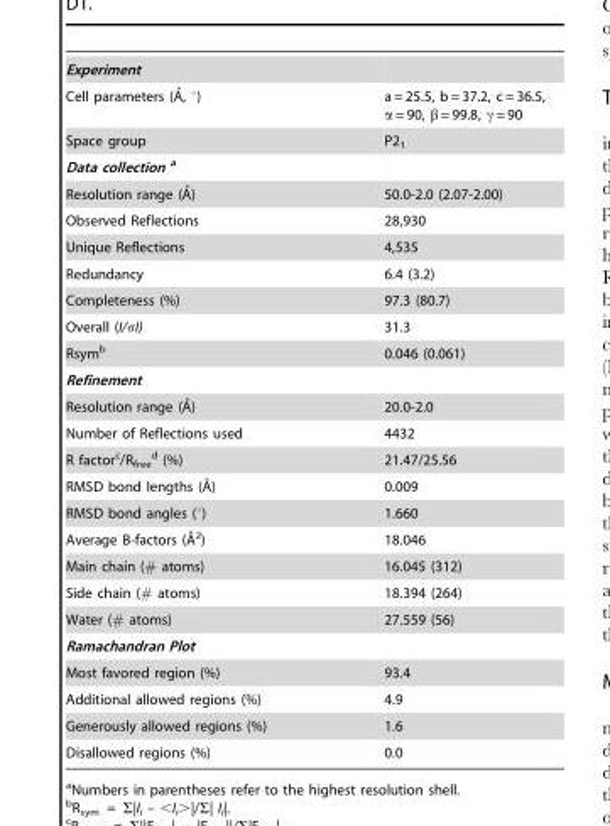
<table><tbody><tr><td colspan="2">Experiment</td></tr><tr><td>Cell parameters (A˚, u)</td><td>a = 25.5, b = 37.2, c = 36.5, α = 90, β = 99.8, γ = 90</td></tr><tr><td>Space group</td><td>P2<sub>1</sub></td></tr><tr><td colspan="2">Data collection a</td></tr><tr><td>Resolution range (A˚)</td><td>50.0-2.0 (2.07-2.00)</td></tr><tr><td>Observed Reflections</td><td>28,930</td></tr><tr><td>Unique Reflections</td><td>4,535</td></tr><tr><td>Redundancy</td><td>6.4 (3.2)</td></tr><tr><td>Completeness (%)</td><td>97.3 (80.7)</td></tr><tr><td>Overall (I/σI)</td><td>31.3</td></tr><tr><td>Rsym<sup>b</sup></td><td>0.046 (0.061)</td></tr><tr><td colspan="2">Refinement</td></tr><tr><td>Resolution range (A˚)</td><td>20.0-2.0</td></tr><tr><td>Number of Reflections used</td><td>4432</td></tr><tr><td>R factor<sup>c</sup>/R<sub>free</sub> d (%)</td><td>21.47/25.56</td></tr><tr><td>RMSD bond lengths (A˚)</td><td>0.009</td></tr><tr><td>RMSD bond angles (°)</td><td>1.660</td></tr><tr><td>Average B-factors (A˚ 2)</td><td>18.046</td></tr><tr><td>Main chain (# atoms)</td><td>16.045 (312)</td></tr><tr><td>Side chain (# atoms)</td><td>18.394 (264)</td></tr><tr><td>Water (# atoms)</td><td>27.559 (56)</td></tr><tr><td colspan="2">Ramachandran Plot</td></tr><tr><td>Most favored region (%)</td><td>93.4</td></tr><tr><td>Additional allowed regions (%)</td><td>4.9</td></tr><tr><td>Generously allowed regions (%)</td><td>1.6</td></tr><tr><td>Disallowed regions (%)</td><td>0.0</td></tr></tbody></table>